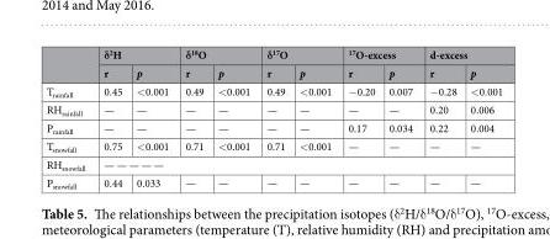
<table><thead><tr><td rowspan="2"></td><td colspan="2">δ<sup>2</sup>H</td><td colspan="2">δ<sup>18</sup>O</td><td colspan="2">δ<sup>17</sup>O</td><td colspan="2"><sup>17</sup>O-excess</td><td colspan="2">d-excess</td></tr><tr><td>r</td><td>p</td><td>r</td><td>p</td><td>r</td><td>p</td><td>r</td><td>p</td><td>r</td><td>p</td></tr></thead><tbody><tr><td>T<sub>rainfall</sub></td><td>0.45</td><td>&lt;0.001</td><td>0.49</td><td>&lt;0.001</td><td>0.49</td><td>&lt;0.001</td><td>−0.20</td><td>0.007</td><td>−0.28</td><td>&lt;0.001</td></tr><tr><td>RH<sub>rainfall</sub></td><td>—</td><td>—</td><td>—</td><td>—</td><td>—</td><td>—</td><td>—</td><td>—</td><td>0.20</td><td>0.006</td></tr><tr><td>P<sub>rainfall</sub></td><td>—</td><td>—</td><td>—</td><td>—</td><td>—</td><td>—</td><td>0.17</td><td>0.034</td><td>0.22</td><td>0.004</td></tr><tr><td>T<sub>snowfall</sub></td><td>0.75</td><td>&lt;0.001</td><td>0.71</td><td>&lt;0.001</td><td>0.71</td><td>&lt;0.001</td><td>—</td><td>—</td><td>—</td><td>—</td></tr><tr><td>RH<sub>snowfall</sub></td><td colspan="10">— — — — —</td></tr><tr><td>P<sub>snowfall</sub></td><td>0.44</td><td>0.033</td><td>—</td><td>—</td><td>—</td><td>—</td><td>—</td><td>—</td><td>—</td><td>—</td></tr></tbody></table>